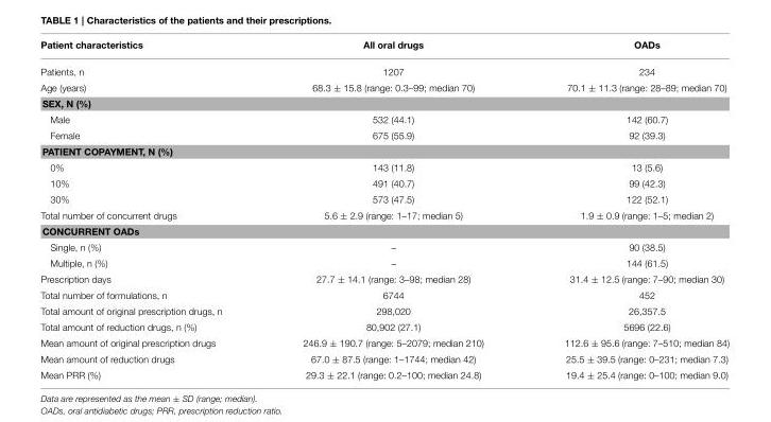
<table><thead><tr><td>Patient characteristics</td><td>All oral drugs</td><td>OADs</td></tr></thead><tbody><tr><td>Patients, n</td><td>1207</td><td>234</td></tr><tr><td>Age (years)</td><td>68.3 ± 15.8 (range: 0.3–99; median 70)</td><td>70.1 ± 11.3 (range: 28–89; median 70)</td></tr><tr><td colspan="3">SEX, N (%)</td></tr><tr><td>Male</td><td>532 (44.1)</td><td>142 (60.7)</td></tr><tr><td>Female</td><td>675 (55.9)</td><td>92 (39.3)</td></tr><tr><td colspan="3">PATIENT COPAYMENT, N (%)</td></tr><tr><td>0%</td><td>143 (11.8)</td><td>13 (5.6)</td></tr><tr><td>10%</td><td>491 (40.7)</td><td>99 (42.3)</td></tr><tr><td>30%</td><td>573 (47.5)</td><td>122 (52.1)</td></tr><tr><td>Total number of concurrent drugs</td><td>5.6 ± 2.9 (range: 1–17; median 5)</td><td>1.9 ± 0.9 (range: 1–5; median 2)</td></tr><tr><td colspan="3">CONCURRENT OADs</td></tr><tr><td>Single, n (%)</td><td>–</td><td>90 (38.5)</td></tr><tr><td>Multiple, n (%)</td><td>–</td><td>144 (61.5)</td></tr><tr><td>Prescription days</td><td>27.7 ± 14.1 (range: 3–98; median 28)</td><td>31.4 ± 12.5 (range: 7–90; median 30)</td></tr><tr><td>Total number of formulations, n</td><td>6744</td><td>452</td></tr><tr><td>Total amount of original prescription drugs, n</td><td>298,020</td><td>26,357.5</td></tr><tr><td>Total amount of reduction drugs, n (%)</td><td>80,902 (27.1)</td><td>5696 (22.6)</td></tr><tr><td>Mean amount of original prescription drugs</td><td>246.9 ± 190.7 (range: 5–2079; median 210)</td><td>112.6 ± 95.6 (range: 7–510; median 84)</td></tr><tr><td>Mean amount of reduction drugs</td><td>67.0 ± 87.5 (range: 1–1744; median 42)</td><td>25.5 ± 39.5 (range: 0–231; median 7.3)</td></tr><tr><td>Mean PRR (%)</td><td>29.3 ± 22.1 (range: 0.2–100; median 24.8)</td><td>19.4 ± 25.4 (range: 0–100; median 9.0)</td></tr></tbody></table>